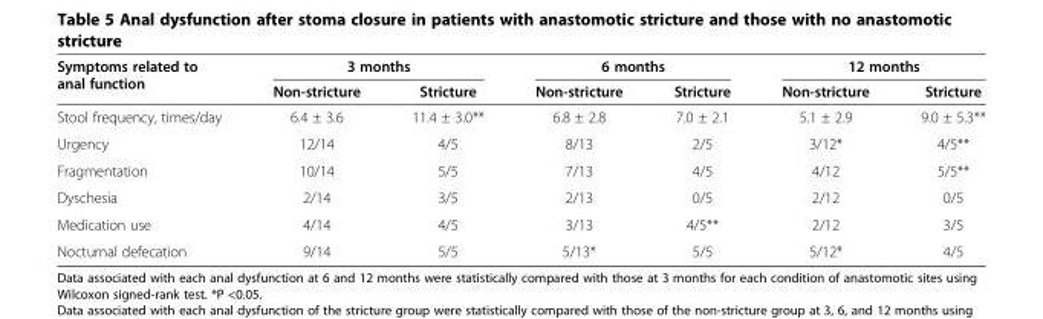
<table><thead><tr><td rowspan="2">Symptoms related to anal function</td><td colspan="2">3 months</td><td colspan="2">6 months</td><td colspan="2">12 months</td></tr><tr><td>Non-stricture</td><td>Stricture</td><td>Non-stricture</td><td>Stricture</td><td>Non-stricture</td><td>Stricture</td></tr></thead><tbody><tr><td>Stool frequency, times/day</td><td>6.4 ± 3.6</td><td>11.4 ± 3.0**</td><td>6.8 ± 2.8</td><td>7.0 ± 2.1</td><td>5.1 ± 2.9</td><td>9.0 ± 5.3**</td></tr><tr><td>Urgency</td><td>12/14</td><td>4/5</td><td>8/13</td><td>2/5</td><td>3/12*</td><td>4/5**</td></tr><tr><td>Fragmentation</td><td>10/14</td><td>5/5</td><td>7/13</td><td>4/5</td><td>4/12</td><td>5/5**</td></tr><tr><td>Dyschesia</td><td>2/14</td><td>3/5</td><td>2/13</td><td>0/5</td><td>2/12</td><td>0/5</td></tr><tr><td>Medication use</td><td>4/14</td><td>4/5</td><td>3/13</td><td>4/5**</td><td>2/12</td><td>3/5</td></tr><tr><td>Nocturnal defecation</td><td>9/14</td><td>5/5</td><td>5/13*</td><td>5/5</td><td>5/12*</td><td>4/5</td></tr></tbody></table>